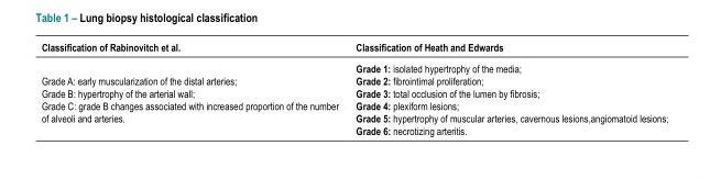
<table><thead><tr><td>Classification of Rabinovitch et al.</td><td>Classification of Heath and Edwards</td></tr></thead><tbody><tr><td>Grade A: early muscularization of the distal arteries; Grade B: hypertrophy of the arterial wall; Grade C: grade B changes associated with increased proportion of the number of alveoli and arteries.</td><td>Grade 1: isolated hypertrophy of the media; Grade 2: fibrointimal proliferation; Grade 3: total occlusion of the lumen by fibrosis; Grade 4: plexiform lesions; Grade 5: hypertrophy of muscular arteries, cavernous lesions,angiomatoid lesions; Grade 6: necrotizing arteritis.</td></tr></tbody></table>